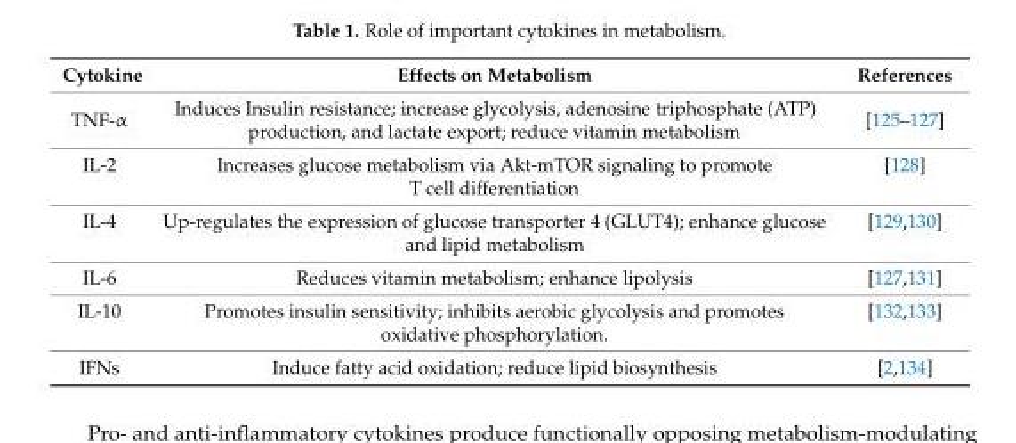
<table><thead><tr><td>Cytokine</td><td>Effects on Metabolism</td><td>References</td></tr></thead><tbody><tr><td>TNF-α</td><td>Induces Insulin resistance; increase glycolysis, adenosine triphosphate (ATP) production, and lactate export; reduce vitamin metabolism</td><td>[125–127]</td></tr><tr><td>IL-2</td><td>Increases glucose metabolism via Akt-mTOR signaling to promote T cell differentiation</td><td>[128]</td></tr><tr><td>IL-4</td><td>Up-regulates the expression of glucose transporter 4 (GLUT4); enhance glucose and lipid metabolism</td><td>[129,130]</td></tr><tr><td>IL-6</td><td>Reduces vitamin metabolism; enhance lipolysis</td><td>[127,131]</td></tr><tr><td>IL-10</td><td>Promotes insulin sensitivity; inhibits aerobic glycolysis and promotes oxidative phosphorylation.</td><td>[132,133]</td></tr><tr><td>IFNs</td><td>Induce fatty acid oxidation; reduce lipid biosynthesis</td><td>[2,134]</td></tr></tbody></table>